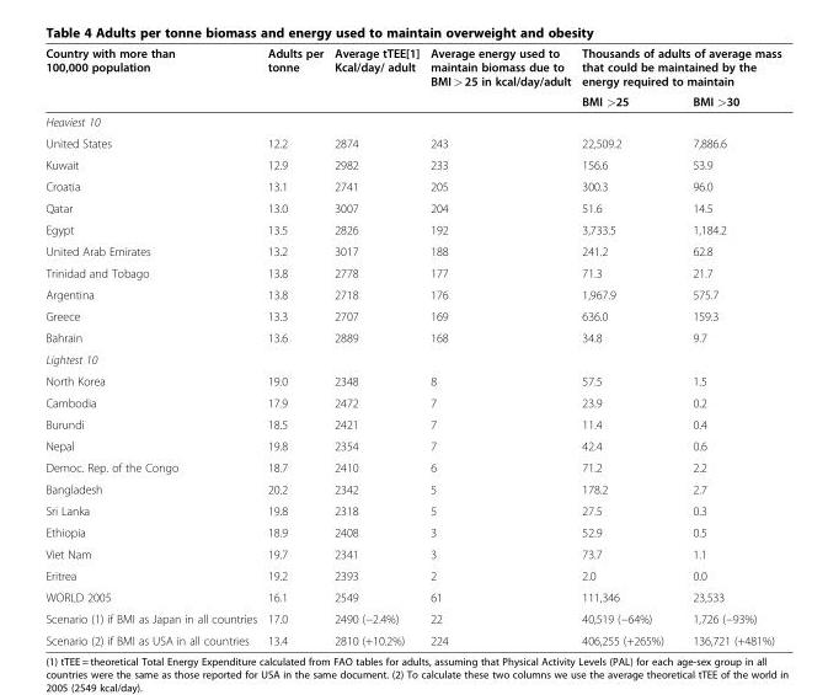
<table><thead><tr><td rowspan="2">Country with more than 100,000 population Heaviest 10</td><td rowspan="2">Adults per tonne</td><td rowspan="2">Average tTEE[1] Kcal/day/ adult</td><td rowspan="2">Average energy used to maintain biomass due to BMI &gt; 25 in kcal/day/adult</td><td colspan="2">Thousands of adults of average mass that could be maintained by the energy required to maintain BMI &gt;25 BMI &gt;30</td></tr><tr><td></td><td></td></tr></thead><tbody><tr><td>United States</td><td>12.2</td><td>2874</td><td>243</td><td>22,509.2</td><td>7,886.6</td></tr><tr><td>Kuwait</td><td>12.9</td><td>2982</td><td>233</td><td>156.6</td><td>53.9</td></tr><tr><td>Croatia</td><td>13.1</td><td>2741</td><td>205</td><td>300.3</td><td>96.0</td></tr><tr><td>Qatar</td><td>13.0</td><td>3007</td><td>204</td><td>51.6</td><td>14.5</td></tr><tr><td>Egypt</td><td>13.5</td><td>2826</td><td>192</td><td>3,733.5</td><td>1,184.2</td></tr><tr><td>United Arab Emirates</td><td>13.2</td><td>3017</td><td>188</td><td>241.2</td><td>62.8</td></tr><tr><td>Trinidad and Tobago</td><td>13.8</td><td>2778</td><td>177</td><td>71.3</td><td>21.7</td></tr><tr><td>Argentina</td><td>13.8</td><td>2718</td><td>176</td><td>1,967.9</td><td>575.7</td></tr><tr><td>Greece</td><td>13.3</td><td>2707</td><td>169</td><td>636.0</td><td>159.3</td></tr><tr><td>Bahrain</td><td>13.6</td><td>2889</td><td>168</td><td>34.8</td><td>9.7</td></tr><tr><td colspan="6">Lightest 10</td></tr><tr><td>North Korea</td><td>19.0</td><td>2348</td><td>8</td><td>57.5</td><td>1.5</td></tr><tr><td>Cambodia</td><td>17.9</td><td>2472</td><td>7</td><td>23.9</td><td>0.2</td></tr><tr><td>Burundi</td><td>18.5</td><td>2421</td><td>7</td><td>11.4</td><td>0.4</td></tr><tr><td>Nepal</td><td>19.8</td><td>2354</td><td>7</td><td>42.4</td><td>0.6</td></tr><tr><td>Democ. Rep. of the Congo</td><td>18.7</td><td>2410</td><td>6</td><td>71.2</td><td>2.2</td></tr><tr><td>Bangladesh</td><td>20.2</td><td>2342</td><td>5</td><td>178.2</td><td>2.7</td></tr><tr><td>Sri Lanka</td><td>19.8</td><td>2318</td><td>5</td><td>27.5</td><td>0.3</td></tr><tr><td>Ethiopia</td><td>18.9</td><td>2408</td><td>3</td><td>52.9</td><td>0.5</td></tr><tr><td>Viet Nam</td><td>19.7</td><td>2341</td><td>3</td><td>73.7</td><td>1.1</td></tr><tr><td>Eritrea</td><td>19.2</td><td>2393</td><td>2</td><td>2.0</td><td>0.0</td></tr><tr><td>WORLD 2005</td><td>16.1</td><td>2549</td><td>61</td><td>111,346</td><td>23,533</td></tr><tr><td>Scenario (1) if BMI as Japan in all countries</td><td>17.0</td><td>2490 (−2.4%)</td><td>22</td><td>40,519 (−64%)</td><td>1,726 (−93%)</td></tr><tr><td>Scenario (2) if BMI as USA in all countries</td><td>13.4</td><td>2810 (+10.2%)</td><td>224</td><td>406,255 (+265%)</td><td>136,721 (+481%)</td></tr></tbody></table>